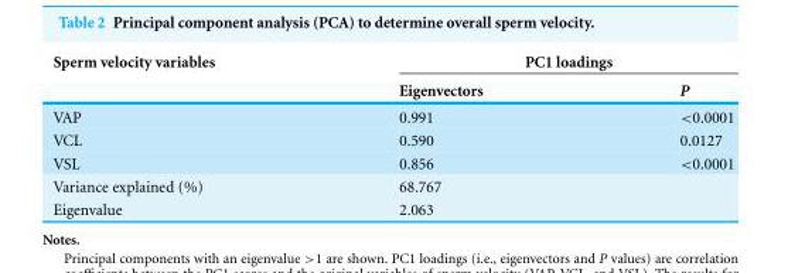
<table><thead><tr><td rowspan="2">Sperm velocity variables</td><td colspan="2">PC1 loadings</td></tr><tr><td>Eigenvectors</td><td>P</td></tr></thead><tbody><tr><td>VAP</td><td>0.991</td><td>&lt;0.0001</td></tr><tr><td>VCL</td><td>0.590</td><td>0.0127</td></tr><tr><td>VSL</td><td>0.856</td><td>&lt;0.0001</td></tr><tr><td>Variance explained (%)</td><td>68.767</td><td></td></tr><tr><td>Eigenvalue</td><td>2.063</td><td></td></tr></tbody></table>